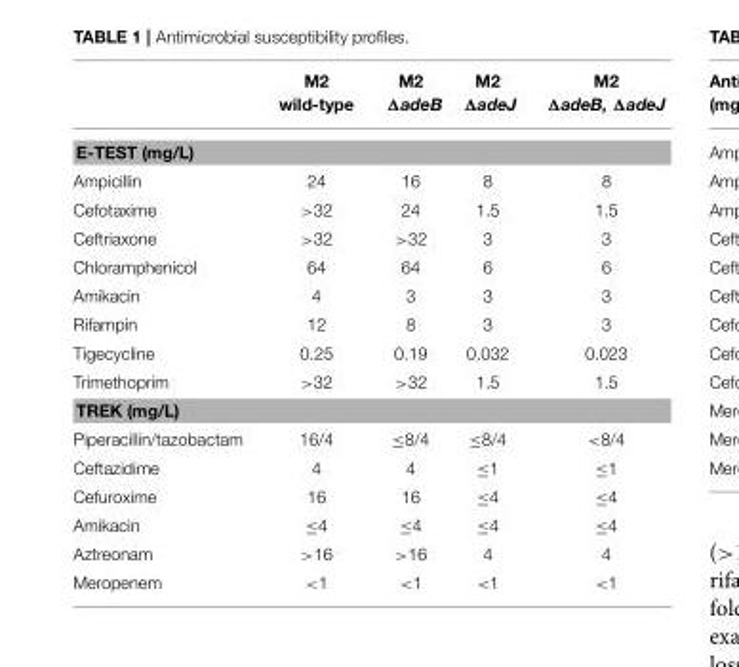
<table><thead><tr><td></td><td>M2 wild-type</td><td>M2 ΔadeB</td><td>M2 ΔadeJ</td><td>M2 ΔadeB, ΔadeJ</td></tr></thead><tbody><tr><td colspan="5">E-TEST (mg/L)</td></tr><tr><td>Ampicillin</td><td>24</td><td>16</td><td>8</td><td>8</td></tr><tr><td>Cefotaxime</td><td>&gt;32</td><td>24</td><td>1.5</td><td>1.5</td></tr><tr><td>Ceftriaxone</td><td>&gt;32</td><td>&gt;32</td><td>3</td><td>3</td></tr><tr><td>Chloramphenicol</td><td>64</td><td>64</td><td>6</td><td>6</td></tr><tr><td>Amikacin</td><td>4</td><td>3</td><td>3</td><td>3</td></tr><tr><td>Rifampin</td><td>12</td><td>8</td><td>3</td><td>3</td></tr><tr><td>Tigecycline</td><td>0.25</td><td>0.19</td><td>0.032</td><td>0.023</td></tr><tr><td>Trimethoprim</td><td>&gt;32</td><td>&gt;32</td><td>1.5</td><td>1.5</td></tr><tr><td colspan="5">TREK (mg/L)</td></tr><tr><td>Piperacillin/tazobactam</td><td>16/4</td><td>≤8/4</td><td>≤8/4</td><td>&lt;8/4</td></tr><tr><td>Ceftazidime</td><td>4</td><td>4</td><td>≤1</td><td>≤1</td></tr><tr><td>Cefuroxime</td><td>16</td><td>16</td><td>≤4</td><td>≤4</td></tr><tr><td>Amikacin</td><td>≤4</td><td>≤4</td><td>≤4</td><td>≤4</td></tr><tr><td>Aztreonam</td><td>&gt;16</td><td>&gt;16</td><td>4</td><td>4</td></tr><tr><td>Meropenem</td><td>&lt;1</td><td>&lt;1</td><td>&lt;1</td><td>&lt;1</td></tr></tbody></table>